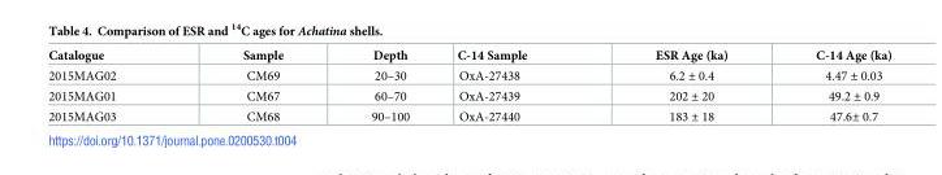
<table><thead><tr><td>Catalogue</td><td>Sample</td><td>Depth</td><td>C-14 Sample</td><td>ESR Age (ka)</td><td>C-14 Age (ka)</td></tr></thead><tbody><tr><td>2015MAG02</td><td>CM69</td><td>20–30</td><td>OxA-27438</td><td>6.2 ± 0.4</td><td>4.47 ± 0.03</td></tr><tr><td>2015MAG01</td><td>CM67</td><td>60–70</td><td>OxA-27439</td><td>202 ± 20</td><td>49.2 ± 0.9</td></tr><tr><td>2015MAG03</td><td>CM68</td><td>90–100</td><td>OxA-27440</td><td>183 ± 18</td><td>47.6± 0.7</td></tr></tbody></table>